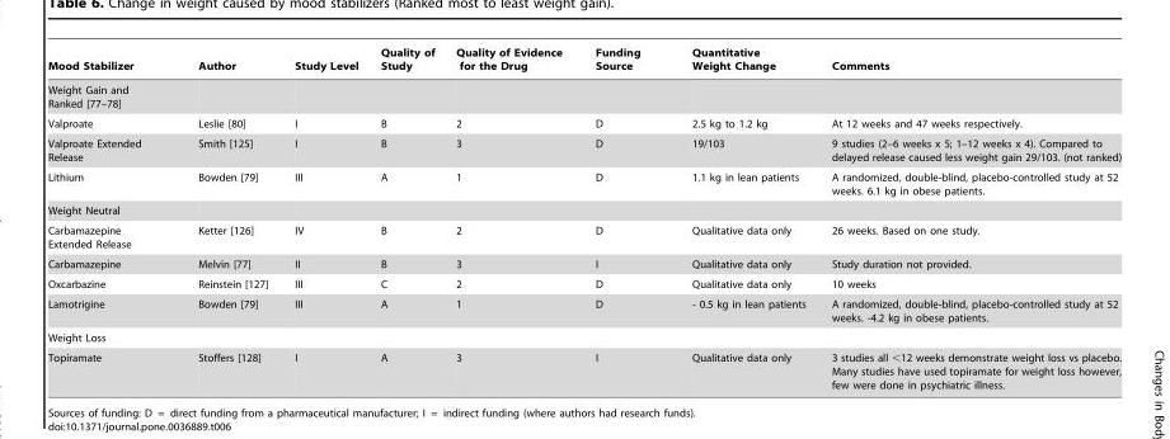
<table><thead><tr><td>Mood Stabilizer</td><td>Author</td><td>Study Level</td><td>Quality of Study</td><td>Quality of Evidence for the Drug</td><td>Funding Source</td><td>Quantitative Weight Change</td><td>Comments</td></tr></thead><tbody><tr><td colspan="8">Weight Gain and Ranked [77–78]</td></tr><tr><td>Valproate</td><td>Leslie [80]</td><td>I</td><td>B</td><td>2</td><td>D</td><td>2.5 kg to 1.2 kg</td><td>At 12 weeks and 47 weeks respectively.</td></tr><tr><td>Valproate Extended Release</td><td>Smith [125]</td><td>I</td><td>B</td><td>3</td><td>D</td><td>19/103</td><td>9 studies (2–6 weeks x 5; 1–12 weeks x 4). Compared to delayed release caused less weight gain 29/103. (not ranked)</td></tr><tr><td>Lithium</td><td>Bowden [79]</td><td>III</td><td>A</td><td>1</td><td>D</td><td>1.1 kg in lean patients</td><td>A randomized, double-blind, placebo-controlled study at 52 weeks. 6.1 kg in obese patients.</td></tr><tr><td colspan="8">Weight Neutral</td></tr><tr><td>Carbamazepine Extended Release</td><td>Ketter [126]</td><td>IV</td><td>B</td><td>2</td><td>D</td><td>Qualitative data only</td><td>26 weeks. Based on one study.</td></tr><tr><td>Carbamazepine</td><td>Melvin [77]</td><td>II</td><td>B</td><td>3</td><td>I</td><td>Qualitative data only</td><td>Study duration not provided.</td></tr><tr><td>Oxcarbazine</td><td>Reinstein [127]</td><td>III</td><td>C</td><td>2</td><td>D</td><td>Qualitative data only</td><td>10 weeks</td></tr><tr><td>Lamotrigine</td><td>Bowden [79]</td><td>III</td><td>A</td><td>1</td><td>D</td><td>- 0.5 kg in lean patients</td><td>A randomized, double-blind, placebo-controlled study at 52 weeks. -4.2 kg in obese patients.</td></tr><tr><td colspan="8">Weight Loss</td></tr><tr><td>Topiramate</td><td>Stoffers [128]</td><td>I</td><td>A</td><td>3</td><td>I</td><td>Qualitative data only</td><td>3 studies all &lt;12 weeks demonstrate weight loss vs placebo. Many studies have used topiramate for weight loss however, few were done in psychiatric illness.</td></tr></tbody></table>